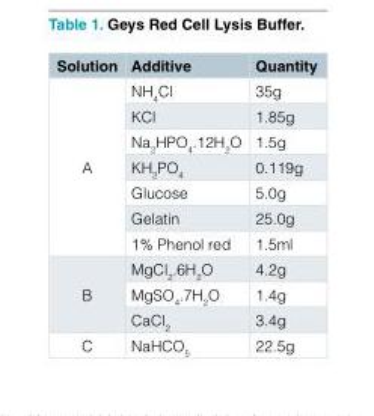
<table><thead><tr><td>Solution</td><td>Additive</td><td>Quantity</td></tr></thead><tbody><tr><td rowspan="7">A</td><td>NH<sub>4</sub>Cl</td><td>35g</td></tr><tr><td>KCl</td><td>1.85g</td></tr><tr><td>Na<sub>2</sub>HPO<sub>4</sub>.12H<sub>2</sub>O</td><td>1.5g</td></tr><tr><td>KH<sub>2</sub>PO<sub>4</sub></td><td>0.119g</td></tr><tr><td>Glucose</td><td>5.0g</td></tr><tr><td>Gelatin</td><td>25.0g</td></tr><tr><td>1% Phenol red</td><td>1.5ml</td></tr><tr><td rowspan="3">B</td><td>MgCl<sub>2</sub>.6H<sub>2</sub>O</td><td>4.2g</td></tr><tr><td>MgSO<sub>4</sub>.7H<sub>2</sub>O</td><td>1.4g</td></tr><tr><td>CaCl<sub>2</sub></td><td>3.4g</td></tr><tr><td>C</td><td>NaHCO<sub>5</sub></td><td>22.5g</td></tr></tbody></table>